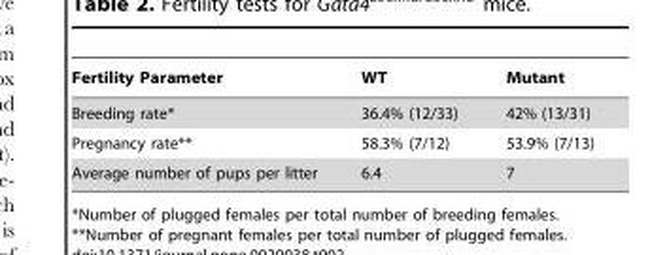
<table><thead><tr><td>Fertility Parameter</td><td>WT</td><td>Mutant</td></tr></thead><tbody><tr><td>Breeding rate*</td><td>36.4% (12/33)</td><td>42% (13/31)</td></tr><tr><td>Pregnancy rate**</td><td>58.3% (7/12)</td><td>53.9% (7/13)</td></tr><tr><td>Average number of pups per litter</td><td>6.4</td><td>7</td></tr></tbody></table>